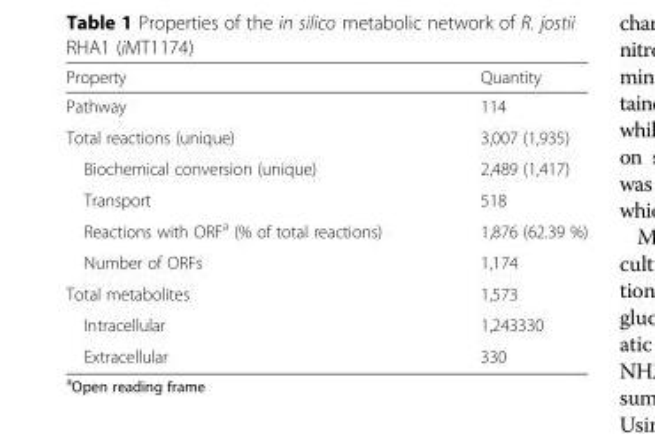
<table><thead><tr><td>Property</td><td>Quantity</td></tr></thead><tbody><tr><td>Pathway</td><td>114</td></tr><tr><td>Total reactions (unique)</td><td>3,007 (1,935)</td></tr><tr><td>Biochemical conversion (unique)</td><td>2,489 (1,417)</td></tr><tr><td>Transport</td><td>518</td></tr><tr><td>Reactions with ORF<sup>a</sup> (% of total reactions)</td><td>1,876 (62.39 %)</td></tr><tr><td>Number of ORFs</td><td>1,174</td></tr><tr><td>Total metabolites</td><td>1,573</td></tr><tr><td>Intracellular</td><td>1,243330</td></tr><tr><td>Extracellular</td><td>330</td></tr></tbody></table>